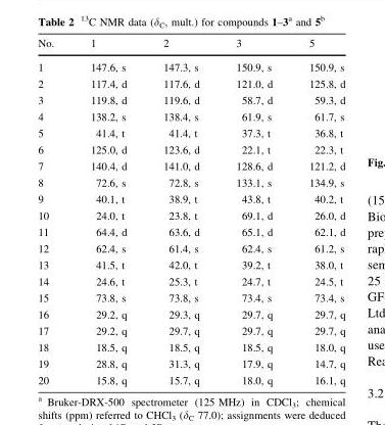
<table><thead><tr><td>No.</td><td>1</td><td>2</td><td>3</td><td>5</td></tr></thead><tbody><tr><td>1</td><td>147.6, s</td><td>147.3, s</td><td>150.9, s</td><td>150.9, s</td></tr><tr><td>2</td><td>117.4, d</td><td>117.6, d</td><td>121.0, d</td><td>125.8, d</td></tr><tr><td>3</td><td>119.8, d</td><td>119.6, d</td><td>58.7, d</td><td>59.3, d</td></tr><tr><td>4</td><td>138.2, s</td><td>138.4, s</td><td>61.9, s</td><td>61.7, s</td></tr><tr><td>5</td><td>41.4, t</td><td>41.4, t</td><td>37.3, t</td><td>36.8, t</td></tr><tr><td>6</td><td>125.0, d</td><td>123.6, d</td><td>22.1, t</td><td>22.3, t</td></tr><tr><td>7</td><td>140.4, d</td><td>141.0, d</td><td>128.6, d</td><td>121.2, d</td></tr><tr><td>8</td><td>72.6, s</td><td>72.8, s</td><td>133.1, s</td><td>134.9, s</td></tr><tr><td>9</td><td>40.1, t</td><td>38.9, t</td><td>43.8, t</td><td>40.2, t</td></tr><tr><td>10</td><td>24.0, t</td><td>23.8, t</td><td>69.1, d</td><td>26.0, d</td></tr><tr><td>11</td><td>64.4, d</td><td>63.6, d</td><td>65.1, d</td><td>62.1, d</td></tr><tr><td>12</td><td>62.4, s</td><td>61.4, s</td><td>62.4, s</td><td>61.2, s</td></tr><tr><td>13</td><td>41.5, t</td><td>42.0, t</td><td>39.2, t</td><td>38.0, t</td></tr><tr><td>14</td><td>24.6, t</td><td>25.3, t</td><td>24.7, t</td><td>24.5, t</td></tr><tr><td>15</td><td>73.8, s</td><td>73.8, s</td><td>73.4, s</td><td>73.4, s</td></tr><tr><td>16</td><td>29.2, q</td><td>29.3, q</td><td>29.7, q</td><td>29.7, q</td></tr><tr><td>17</td><td>29.2, q</td><td>29.7, q</td><td>29.7, q</td><td>29.7, q</td></tr><tr><td>18</td><td>18.5, q</td><td>18.5, q</td><td>18.5, q</td><td>18.0, q</td></tr><tr><td>19</td><td>28.8, q</td><td>31.3, q</td><td>17.9, q</td><td>14.7, q</td></tr><tr><td>20</td><td>15.8, q</td><td>15.7, q</td><td>18.0, q</td><td>16.1, q</td></tr></tbody></table>